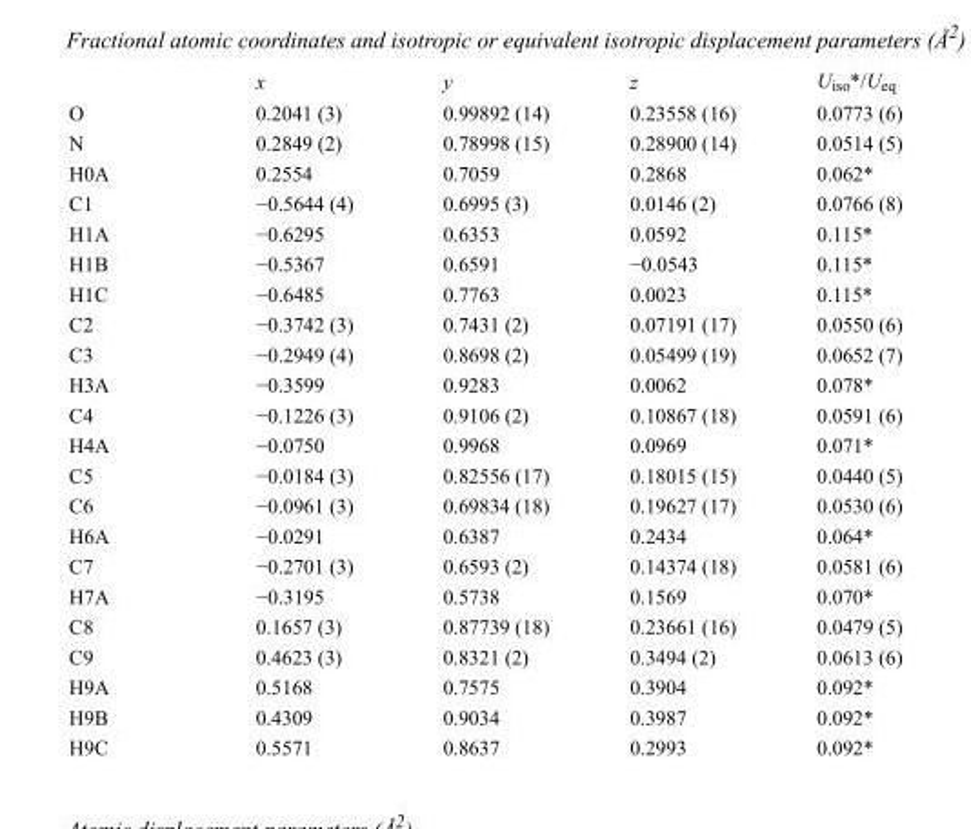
<table><thead><tr><td></td><td>x</td><td>y</td><td>z</td><td>U<sub>iso</sub>*/U<sub>eq</sub></td></tr></thead><tbody><tr><td>O</td><td>0.2041 (3)</td><td>0.99892 (14)</td><td>0.23558 (16)</td><td>0.0773 (6)</td></tr><tr><td>N</td><td>0.2849 (2)</td><td>0.78998 (15)</td><td>0.28900 (14)</td><td>0.0514 (5)</td></tr><tr><td>H0A</td><td>0.2554</td><td>0.7059</td><td>0.2868</td><td>0.062*</td></tr><tr><td>C1</td><td>−0.5644 (4)</td><td>0.6995 (3)</td><td>0.0146 (2)</td><td>0.0766 (8)</td></tr><tr><td>H1A</td><td>−0.6295</td><td>0.6353</td><td>0.0592</td><td>0.115*</td></tr><tr><td>H1B</td><td>−0.5367</td><td>0.6591</td><td>−0.0543</td><td>0.115*</td></tr><tr><td>H1C</td><td>−0.6485</td><td>0.7763</td><td>0.0023</td><td>0.115*</td></tr><tr><td>C2</td><td>−0.3742 (3)</td><td>0.7431 (2)</td><td>0.07191 (17)</td><td>0.0550 (6)</td></tr><tr><td>C3</td><td>−0.2949 (4)</td><td>0.8698 (2)</td><td>0.05499 (19)</td><td>0.0652 (7)</td></tr><tr><td>H3A</td><td>−0.3599</td><td>0.9283</td><td>0.0062</td><td>0.078*</td></tr><tr><td>C4</td><td>−0.1226 (3)</td><td>0.9106 (2)</td><td>0.10867 (18)</td><td>0.0591 (6)</td></tr><tr><td>H4A</td><td>−0.0750</td><td>0.9968</td><td>0.0969</td><td>0.071*</td></tr><tr><td>C5</td><td>−0.0184 (3)</td><td>0.82556 (17)</td><td>0.18015 (15)</td><td>0.0440 (5)</td></tr><tr><td>C6</td><td>−0.0961 (3)</td><td>0.69834 (18)</td><td>0.19627 (17)</td><td>0.0530 (6)</td></tr><tr><td>H6A</td><td>−0.0291</td><td>0.6387</td><td>0.2434</td><td>0.064*</td></tr><tr><td>C7</td><td>−0.2701 (3)</td><td>0.6593 (2)</td><td>0.14374 (18)</td><td>0.0581 (6)</td></tr><tr><td>H7A</td><td>−0.3195</td><td>0.5738</td><td>0.1569</td><td>0.070*</td></tr><tr><td>C8</td><td>0.1657 (3)</td><td>0.87739 (18)</td><td>0.23661 (16)</td><td>0.0479 (5)</td></tr><tr><td>C9</td><td>0.4623 (3)</td><td>0.8321 (2)</td><td>0.3494 (2)</td><td>0.0613 (6)</td></tr><tr><td>H9A</td><td>0.5168</td><td>0.7575</td><td>0.3904</td><td>0.092*</td></tr><tr><td>H9B</td><td>0.4309</td><td>0.9034</td><td>0.3987</td><td>0.092*</td></tr><tr><td>H9C</td><td>0.5571</td><td>0.8637</td><td>0.2993</td><td>0.092*</td></tr></tbody></table>